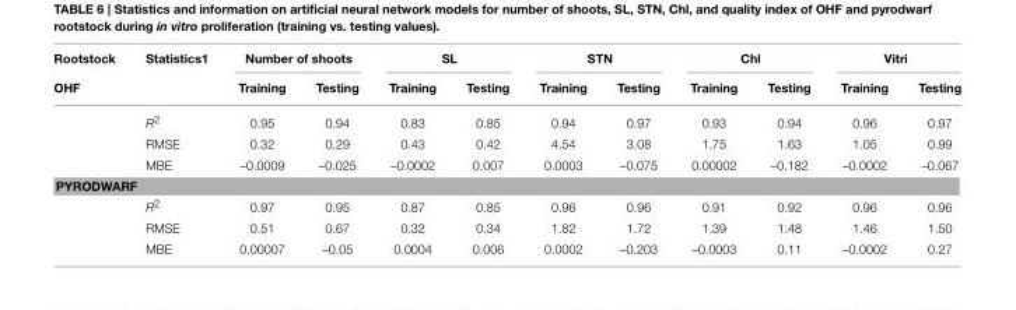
<table><thead><tr><td rowspan="2">Rootstock OHF</td><td rowspan="2">Statistics1</td><td colspan="2">Number of shoots</td><td colspan="2">SL</td><td colspan="2">STN</td><td colspan="2">Chl</td><td colspan="2">Vitri</td></tr><tr><td>Training</td><td>Testing</td><td>Training</td><td>Testing</td><td>Training</td><td>Testing</td><td>Training</td><td>Testing</td><td>Training</td><td>Testing</td></tr></thead><tbody><tr><td></td><td>R<sup>2</sup></td><td>0.95</td><td>0.94</td><td>0.83</td><td>0.85</td><td>0.94</td><td>0.97</td><td>0.93</td><td>0.94</td><td>0.96</td><td>0.97</td></tr><tr><td></td><td>RMSE</td><td>0.32</td><td>0.29</td><td>0.43</td><td>0.42</td><td>4.54</td><td>3.08</td><td>1.75</td><td>1.63</td><td>1.05</td><td>0.99</td></tr><tr><td></td><td>MBE</td><td>–0.0009</td><td>–0.025</td><td>–0.0002</td><td>0.007</td><td>0.0003</td><td>–0.075</td><td>0.00002</td><td>–0.182</td><td>–0.0002</td><td>–0.067</td></tr><tr><td colspan="12">PYRODWARF</td></tr><tr><td></td><td>R<sup>2</sup></td><td>0.97</td><td>0.95</td><td>0.87</td><td>0.85</td><td>0.96</td><td>0.96</td><td>0.91</td><td>0.92</td><td>0.96</td><td>0.96</td></tr><tr><td></td><td>RMSE</td><td>0.51</td><td>0.67</td><td>0.32</td><td>0.34</td><td>1.82</td><td>1.72</td><td>1.39</td><td>1.48</td><td>1.46</td><td>1.50</td></tr><tr><td></td><td>MBE</td><td>0.00007</td><td>–0.05</td><td>0.0004</td><td>0.006</td><td>0.0002</td><td>–0.203</td><td>–0.0003</td><td>0.11</td><td>–0.0002</td><td>0.27</td></tr></tbody></table>